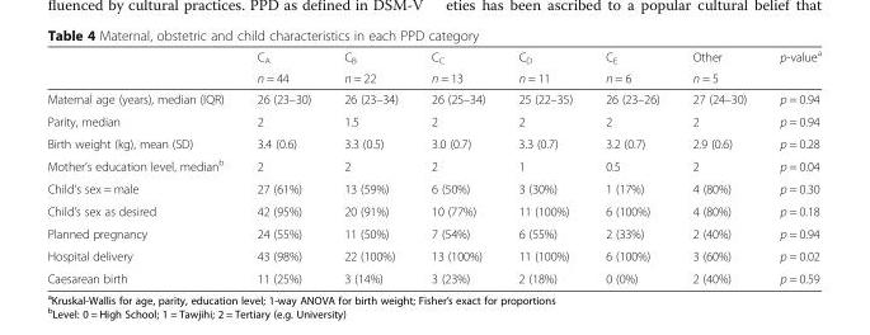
<table><thead><tr><td rowspan="2"></td><td rowspan="2">C<sub>A</sub> n = 44</td><td rowspan="2">C<sub>B</sub> n = 22</td><td rowspan="2">C<sub>C</sub> n = 13</td><td rowspan="2">C<sub>D</sub> n = 11</td><td rowspan="2">C<sub>E</sub> n = 6</td><td rowspan="2">Other n = 5</td><td rowspan="2">p-value<sup>a</sup></td></tr><tr></tr></thead><tbody><tr><td>Maternal age (years), median (IQR)</td><td>26 (23–30)</td><td>26 (23–34)</td><td>26 (25–34)</td><td>25 (22–35)</td><td>26 (23–26)</td><td>27 (24–30)</td><td>p = 0.94</td></tr><tr><td>Parity, median</td><td>2</td><td>1.5</td><td>2</td><td>2</td><td>2</td><td>2</td><td>p = 0.94</td></tr><tr><td>Birth weight (kg), mean (SD)</td><td>3.4 (0.6)</td><td>3.3 (0.5)</td><td>3.0 (0.7)</td><td>3.3 (0.7)</td><td>3.2 (0.7)</td><td>2.9 (0.6)</td><td>p = 0.28</td></tr><tr><td>Mother’s education level, median<sup>b</sup></td><td>2</td><td>2</td><td>2</td><td>1</td><td>0.5</td><td>2</td><td>p = 0.04</td></tr><tr><td>Child&#x27;s sex = male</td><td>27 (61%)</td><td>13 (59%)</td><td>6 (50%)</td><td>3 (30%)</td><td>1 (17%)</td><td>4 (80%)</td><td>p = 0.30</td></tr><tr><td>Child’s sex as desired</td><td>42 (95%)</td><td>20 (91%)</td><td>10 (77%)</td><td>11 (100%)</td><td>6 (100%)</td><td>4 (80%)</td><td>p = 0.18</td></tr><tr><td>Planned pregnancy</td><td>24 (55%)</td><td>11 (50%)</td><td>7 (54%)</td><td>6 (55%)</td><td>2 (33%)</td><td>2 (40%)</td><td>p = 0.94</td></tr><tr><td>Hospital delivery</td><td>43 (98%)</td><td>22 (100%)</td><td>13 (100%)</td><td>11 (100%)</td><td>6 (100%)</td><td>3 (60%)</td><td>p = 0.02</td></tr><tr><td>Caesarean birth</td><td>11 (25%)</td><td>3 (14%)</td><td>3 (23%)</td><td>2 (18%)</td><td>0 (0%)</td><td>2 (40%)</td><td>p = 0.59</td></tr></tbody></table>